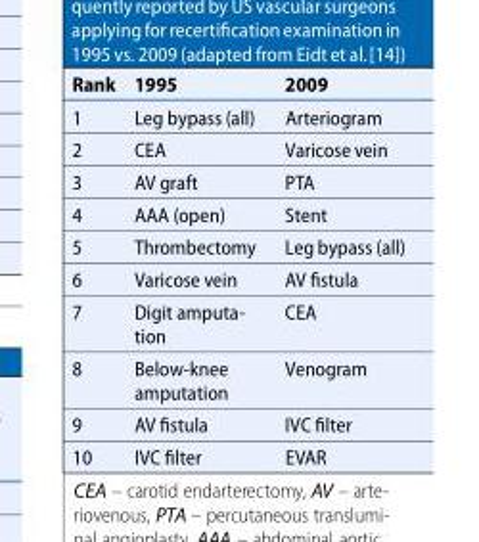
<table><thead><tr><td>Rank</td><td>1995</td><td>2009</td></tr></thead><tbody><tr><td>1</td><td>Leg bypass (all)</td><td>Arteriogram</td></tr><tr><td>2</td><td>CEA</td><td>Varicose vein</td></tr><tr><td>3</td><td>AV graft</td><td>PTA</td></tr><tr><td>4</td><td>AAA (open)</td><td>Stent</td></tr><tr><td>5</td><td>Thrombectomy</td><td>Leg bypass (all)</td></tr><tr><td>6</td><td>Varicose vein</td><td>AV fistula</td></tr><tr><td>7</td><td>Digit amputa- tion</td><td>CEA</td></tr><tr><td>8</td><td>Below-knee amputation</td><td>Venogram</td></tr><tr><td>9</td><td>AV fistula</td><td>IVC filter</td></tr><tr><td>10</td><td>IVC filter</td><td>EVAR</td></tr></tbody></table>